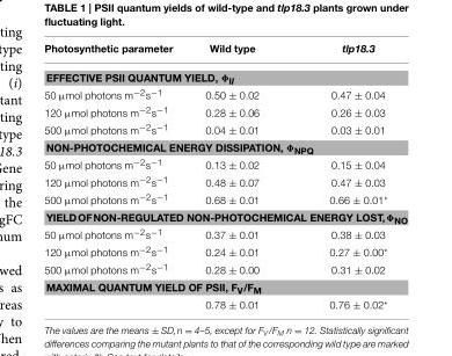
<table><thead><tr><td>Photosynthetic parameter</td><td>Wild type</td><td>tlp18.3</td></tr></thead><tbody><tr><td colspan="3">EFFECTIVE PSII QUANTUM YIELD, Φ<sub>II</sub></td></tr><tr><td>50 µmol photons m<sup>−2</sup>s<sup>−1</sup></td><td>0.50 ± 0.02</td><td>0.47 ± 0.04</td></tr><tr><td>120 µmol photons m<sup>−2</sup>s<sup>−1</sup></td><td>0.28 ± 0.06</td><td>0.26 ± 0.03</td></tr><tr><td>500 µmol photons m<sup>−2</sup>s<sup>−1</sup></td><td>0.04 ± 0.01</td><td>0.03 ± 0.01</td></tr><tr><td colspan="3">NON-PHOTOCHEMICAL ENERGY DISSIPATION, Φ<sub>NPQ</sub></td></tr><tr><td>50 µmol photons m<sup>−2</sup>s<sup>−1</sup></td><td>0.13 ± 0.02</td><td>0.15 ± 0.04</td></tr><tr><td>120 µmol photons m<sup>−2</sup>s<sup>−1</sup></td><td>0.48 ± 0.07</td><td>0.47 ± 0.03</td></tr><tr><td>500 µmol photons m<sup>−2</sup>s<sup>−1</sup></td><td>0.68 ± 0.01</td><td>0.66 ± 0.01*</td></tr><tr><td colspan="3">YIELDOFNON-REGULATED NON-PHOTOCHEMICAL ENERGY LOST,Φ<sub>NO</sub></td></tr><tr><td>50 µmol photons m<sup>−2</sup>s<sup>−1</sup></td><td>0.37 ± 0.01</td><td>0.38 ± 0.03</td></tr><tr><td>120 µmol photons m<sup>−2</sup>s<sup>−1</sup></td><td>0.24 ± 0.01</td><td>0.27 ± 0.00*</td></tr><tr><td>500 µmol photons m<sup>−2</sup>s<sup>−1</sup></td><td>0.28 ± 0.00</td><td>0.31 ± 0.02</td></tr><tr><td colspan="3">MAXIMAL QUANTUM YIELD OF PSII, F<sub>V</sub>/F<sub>M</sub></td></tr><tr><td></td><td>0.78 ± 0.01</td><td>0.76 ± 0.02*</td></tr></tbody></table>